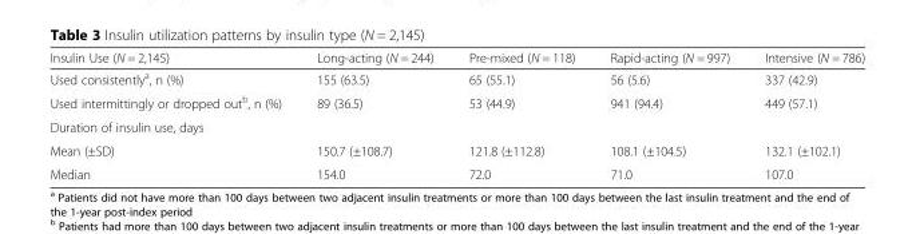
<table><thead><tr><td>Insulin Use (N = 2,145)</td><td>Long-acting (N = 244)</td><td>Pre-mixed (N = 118)</td><td>Rapid-acting (N = 997)</td><td>Intensive (N = 786)</td></tr></thead><tbody><tr><td>Used consistently<sup>a</sup>, n (%)</td><td>155 (63.5)</td><td>65 (55.1)</td><td>56 (5.6)</td><td>337 (42.9)</td></tr><tr><td>Used intermittingly or dropped out<sup>b</sup>, n (%)</td><td>89 (36.5)</td><td>53 (44.9)</td><td>941 (94.4)</td><td>449 (57.1)</td></tr><tr><td colspan="5">Duration of insulin use, days</td></tr><tr><td>Mean (±SD)</td><td>150.7 (±108.7)</td><td>121.8 (±112.8)</td><td>108.1 (±104.5)</td><td>132.1 (±102.1)</td></tr><tr><td>Median</td><td>154.0</td><td>72.0</td><td>71.0</td><td>107.0</td></tr></tbody></table>